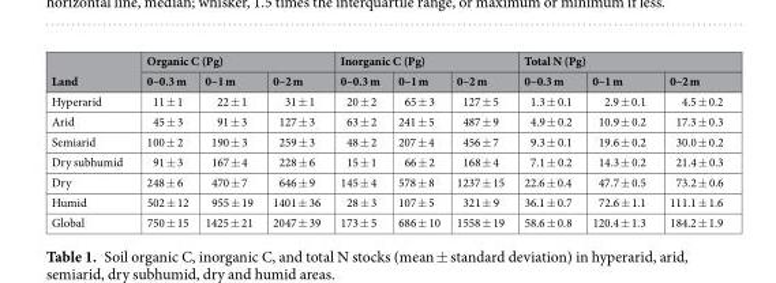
<table><thead><tr><td rowspan="2">Land</td><td colspan="3">Organic C (Pg)</td><td colspan="3">Inorganic C (Pg)</td><td colspan="3">Total N (Pg)</td></tr><tr><td>0–0.3 m</td><td>0–1 m</td><td>0–2 m</td><td>0–0.3 m</td><td>0–1 m</td><td>0–2 m</td><td>0–0.3 m</td><td>0–1 m</td><td>0–2 m</td></tr></thead><tbody><tr><td>Hyperarid</td><td>11 ± 1</td><td>22 ± 1</td><td>31 ± 1</td><td>20 ± 2</td><td>65 ± 3</td><td>127 ± 5</td><td>1.3 ± 0.1</td><td>2.9 ± 0.1</td><td>4.5 ± 0.2</td></tr><tr><td>Arid</td><td>45 ± 3</td><td>91 ± 3</td><td>127 ± 3</td><td>63 ± 2</td><td>241 ± 5</td><td>487 ± 9</td><td>4.9 ± 0.2</td><td>10.9 ± 0.2</td><td>17.3 ± 0.3</td></tr><tr><td>Semiarid</td><td>100 ± 2</td><td>190 ± 3</td><td>259 ± 3</td><td>48 ± 2</td><td>207 ± 4</td><td>456 ± 7</td><td>9.3 ± 0.1</td><td>19.6 ± 0.2</td><td>30.0 ± 0.2</td></tr><tr><td>Dry subhumid</td><td>91 ± 3</td><td>167 ± 4</td><td>228 ± 6</td><td>15 ± 1</td><td>66 ± 2</td><td>168 ± 4</td><td>7.1 ± 0.2</td><td>14.3 ± 0.2</td><td>21.4 ± 0.3</td></tr><tr><td>Dry</td><td>248 ± 6</td><td>470 ± 7</td><td>646 ± 9</td><td>145 ± 4</td><td>578 ± 8</td><td>1237 ± 15</td><td>22.6 ± 0.4</td><td>47.7 ± 0.5</td><td>73.2 ± 0.6</td></tr><tr><td>Humid</td><td>502 ± 12</td><td>955 ± 19</td><td>1401 ± 36</td><td>28 ± 3</td><td>107 ± 5</td><td>321 ± 9</td><td>36.1 ± 0.7</td><td>72.6 ± 1.1</td><td>111.1 ± 1.6</td></tr><tr><td>Global</td><td>750 ± 15</td><td>1425 ± 21</td><td>2047 ± 39</td><td>173 ± 5</td><td>686 ± 10</td><td>1558 ± 19</td><td>58.6 ± 0.8</td><td>120.4 ± 1.3</td><td>184.2 ± 1.9</td></tr></tbody></table>